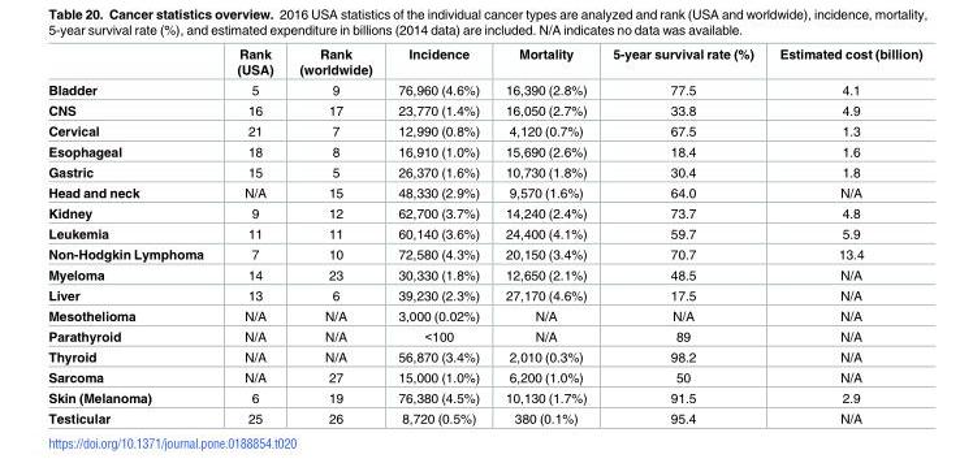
<table><thead><tr><td></td><td>Rank (USA)</td><td>Rank (worldwide)</td><td>Incidence</td><td>Mortality</td><td>5-year survival rate (%)</td><td>Estimated cost (billion)</td></tr></thead><tbody><tr><td>Bladder</td><td>5</td><td>9</td><td>76,960 (4.6%)</td><td>16,390 (2.8%)</td><td>77.5</td><td>4.1</td></tr><tr><td>CNS</td><td>16</td><td>17</td><td>23,770 (1.4%)</td><td>16,050 (2.7%)</td><td>33.8</td><td>4.9</td></tr><tr><td>Cervical</td><td>21</td><td>7</td><td>12,990 (0.8%)</td><td>4,120 (0.7%)</td><td>67.5</td><td>1.3</td></tr><tr><td>Esophageal</td><td>18</td><td>8</td><td>16,910 (1.0%)</td><td>15,690 (2.6%)</td><td>18.4</td><td>1.6</td></tr><tr><td>Gastric</td><td>15</td><td>5</td><td>26,370 (1.6%)</td><td>10,730 (1.8%)</td><td>30.4</td><td>1.8</td></tr><tr><td>Head and neck</td><td>N/A</td><td>15</td><td>48,330 (2.9%)</td><td>9,570 (1.6%)</td><td>64.0</td><td>N/A</td></tr><tr><td>Kidney</td><td>9</td><td>12</td><td>62,700 (3.7%)</td><td>14,240 (2.4%)</td><td>73.7</td><td>4.8</td></tr><tr><td>Leukemia</td><td>11</td><td>11</td><td>60,140 (3.6%)</td><td>24,400 (4.1%)</td><td>59.7</td><td>5.9</td></tr><tr><td>Non-Hodgkin Lymphoma</td><td>7</td><td>10</td><td>72,580 (4.3%)</td><td>20,150 (3.4%)</td><td>70.7</td><td>13.4</td></tr><tr><td>Myeloma</td><td>14</td><td>23</td><td>30,330 (1.8%)</td><td>12,650 (2.1%)</td><td>48.5</td><td>N/A</td></tr><tr><td>Liver</td><td>13</td><td>6</td><td>39,230 (2.3%)</td><td>27,170 (4.6%)</td><td>17.5</td><td>N/A</td></tr><tr><td>Mesothelioma</td><td>N/A</td><td>N/A</td><td>3,000 (0.02%)</td><td>N/A</td><td>N/A</td><td>N/A</td></tr><tr><td>Parathyroid</td><td>N/A</td><td>N/A</td><td>&lt;100</td><td>N/A</td><td>89</td><td>N/A</td></tr><tr><td>Thyroid</td><td>N/A</td><td>N/A</td><td>56,870 (3.4%)</td><td>2,010 (0.3%)</td><td>98.2</td><td>N/A</td></tr><tr><td>Sarcoma</td><td>N/A</td><td>27</td><td>15,000 (1.0%)</td><td>6,200 (1.0%)</td><td>50</td><td>N/A</td></tr><tr><td>Skin (Melanoma)</td><td>6</td><td>19</td><td>76,380 (4.5%)</td><td>10,130 (1.7%)</td><td>91.5</td><td>2.9</td></tr><tr><td>Testicular</td><td>25</td><td>26</td><td>8,720 (0.5%)</td><td>380 (0.1%)</td><td>95.4</td><td>N/A</td></tr></tbody></table>